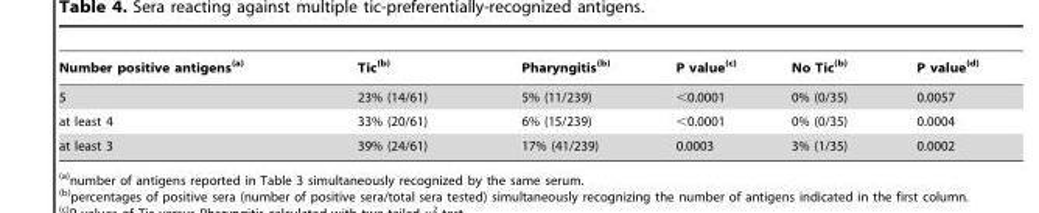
<table><thead><tr><td>Number positive antigens(a)</td><td>Tic(b)</td><td>Pharyngitis(b)</td><td>P value(c)</td><td>No Tic(b)</td><td>P value(d)</td></tr></thead><tbody><tr><td>5</td><td>23% (14/61)</td><td>5% (11/239)</td><td>&lt;0.0001</td><td>0% (0/35)</td><td>0.0057</td></tr><tr><td>at least 4</td><td>33% (20/61)</td><td>6% (15/239)</td><td>&lt;0.0001</td><td>0% (0/35)</td><td>0.0004</td></tr><tr><td>at least 3</td><td>39% (24/61)</td><td>17% (41/239)</td><td>0.0003</td><td>3% (1/35)</td><td>0.0002</td></tr></tbody></table>